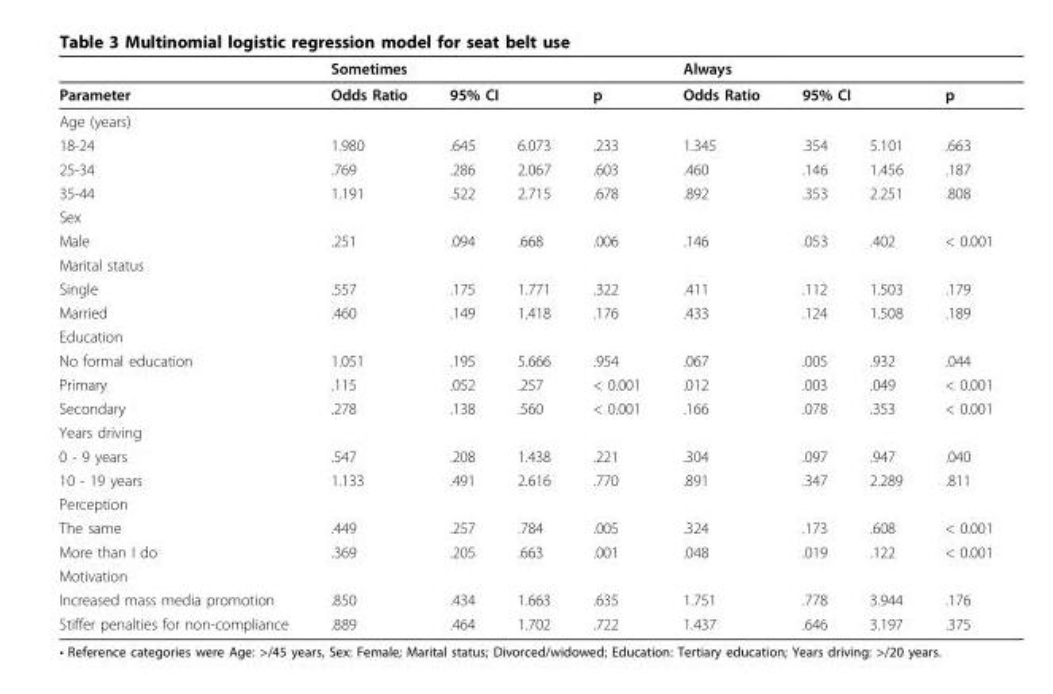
<table><thead><tr><td rowspan="3">Parameter Age (years)</td><td colspan="4">Sometimes</td><td colspan="4">Always</td></tr><tr><td rowspan="2">Odds Ratio</td><td colspan="2">95% CI</td><td rowspan="2">p</td><td rowspan="2">Odds Ratio</td><td colspan="2">95% CI</td><td rowspan="2">p</td></tr><tr><td></td><td></td><td></td><td></td></tr></thead><tbody><tr><td>18-24</td><td>1.980</td><td>.645</td><td>6.073</td><td>.233</td><td>1.345</td><td>.354</td><td>5.101</td><td>.663</td></tr><tr><td>25-34</td><td>.769</td><td>.286</td><td>2.067</td><td>.603</td><td>.460</td><td>.146</td><td>1.456</td><td>.187</td></tr><tr><td>35-44</td><td>1.191</td><td>.522</td><td>2.715</td><td>.678</td><td>.892</td><td>.353</td><td>2.251</td><td>.808</td></tr><tr><td colspan="9">Sex</td></tr><tr><td>Male</td><td>.251</td><td>.094</td><td>.668</td><td>.006</td><td>.146</td><td>.053</td><td>.402</td><td>&lt; 0.001</td></tr><tr><td colspan="9">Marital status</td></tr><tr><td>Single</td><td>.557</td><td>.175</td><td>1.771</td><td>.322</td><td>.411</td><td>.112</td><td>1.503</td><td>.179</td></tr><tr><td>Married</td><td>.460</td><td>.149</td><td>1.418</td><td>.176</td><td>.433</td><td>.124</td><td>1.508</td><td>.189</td></tr><tr><td colspan="9">Education</td></tr><tr><td>No formal education</td><td>1.051</td><td>.195</td><td>5.666</td><td>.954</td><td>.067</td><td>.005</td><td>.932</td><td>.044</td></tr><tr><td>Primary</td><td>.115</td><td>.052</td><td>.257</td><td>&lt; 0.001</td><td>.012</td><td>.003</td><td>.049</td><td>&lt; 0.001</td></tr><tr><td>Secondary</td><td>.278</td><td>.138</td><td>.560</td><td>&lt; 0.001</td><td>.166</td><td>.078</td><td>.353</td><td>&lt; 0.001</td></tr><tr><td colspan="9">Years driving</td></tr><tr><td>0 - 9 years</td><td>.547</td><td>.208</td><td>1.438</td><td>.221</td><td>.304</td><td>.097</td><td>.947</td><td>.040</td></tr><tr><td>10 - 19 years</td><td>1.133</td><td>.491</td><td>2.616</td><td>.770</td><td>.891</td><td>.347</td><td>2.289</td><td>.811</td></tr><tr><td colspan="9">Perception</td></tr><tr><td>The same</td><td>.449</td><td>.257</td><td>.784</td><td>.005</td><td>.324</td><td>.173</td><td>.608</td><td>&lt; 0.001</td></tr><tr><td>More than I do</td><td>.369</td><td>.205</td><td>.663</td><td>.001</td><td>.048</td><td>.019</td><td>.122</td><td>&lt; 0.001</td></tr><tr><td colspan="9">Motivation</td></tr><tr><td>Increased mass media promotion</td><td>.850</td><td>.434</td><td>1.663</td><td>.635</td><td>1.751</td><td>.778</td><td>3.944</td><td>.176</td></tr><tr><td>Stiffer penalties for non-compliance</td><td>.889</td><td>.464</td><td>1.702</td><td>.722</td><td>1.437</td><td>.646</td><td>3.197</td><td>.375</td></tr></tbody></table>